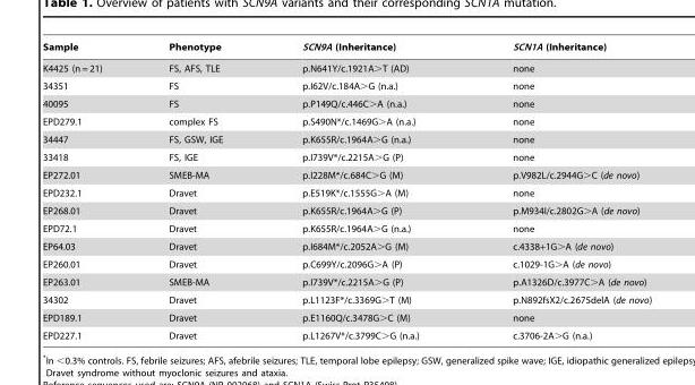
<table><thead><tr><td>Sample</td><td>Phenotype</td><td>SCN9A (Inheritance)</td><td>SCN1A (Inheritance)</td></tr></thead><tbody><tr><td>K4425 (n = 21)</td><td>FS, AFS, TLE</td><td>p.N641Y/c.1921A&gt;T (AD)</td><td>none</td></tr><tr><td>34351</td><td>FS</td><td>p.I62V/c.184A&gt;G (n.a.)</td><td>none</td></tr><tr><td>40095</td><td>FS</td><td>p.P149Q/c.446C&gt;A (n.a.)</td><td>none</td></tr><tr><td>EPD279.1</td><td>complex FS</td><td>p.S490N*/c.1469G&gt;A (n.a.)</td><td>none</td></tr><tr><td>34447</td><td>FS, GSW, IGE</td><td>p.K655R/c.1964A&gt;G (n.a.)</td><td>none</td></tr><tr><td>33418</td><td>FS, IGE</td><td>p.I739V*/c.2215A&gt;G (P)</td><td>none</td></tr><tr><td>EP272.01</td><td>SMEB-MA</td><td>p.I228M*/c.684C&gt;G (M)</td><td>p.V982L/c.2944G&gt;C (de novo)</td></tr><tr><td>EPD232.1</td><td>Dravet</td><td>p.E519K*/c.1555G&gt;A (M)</td><td>none</td></tr><tr><td>EP268.01</td><td>Dravet</td><td>p.K655R/c.1964A&gt;G (P)</td><td>p.M934I/c.2802G&gt;A (de novo)</td></tr><tr><td>EPD72.1</td><td>Dravet</td><td>p.K655R/c.1964A&gt;G (n.a.)</td><td>none</td></tr><tr><td>EP64.03</td><td>Dravet</td><td>p.I684M*/c.2052A&gt;G (M)</td><td>c.4338+1G&gt;A (de novo)</td></tr><tr><td>EP260.01</td><td>Dravet</td><td>p.C699Y/c.2096G&gt;A (P)</td><td>c.1029-1G&gt;A (de novo)</td></tr><tr><td>EP263.01</td><td>SMEB-MA</td><td>p.I739V*/c.2215A&gt;G (P)</td><td>p.A1326D/c.3977C&gt;A (de novo)</td></tr><tr><td>34302</td><td>Dravet</td><td>p.L1123F*/c.3369G&gt;T (M)</td><td>p.N892fsX2/c.2675delA (de novo)</td></tr><tr><td>EPD189.1</td><td>Dravet</td><td>p.E1160Q/c.3478G&gt;C (M)</td><td>none</td></tr><tr><td>EPD227.1</td><td>Dravet</td><td>p.L1267V*/c.3799C&gt;G (n.a.)</td><td>c.3706-2A&gt;G (n.a.)</td></tr></tbody></table>